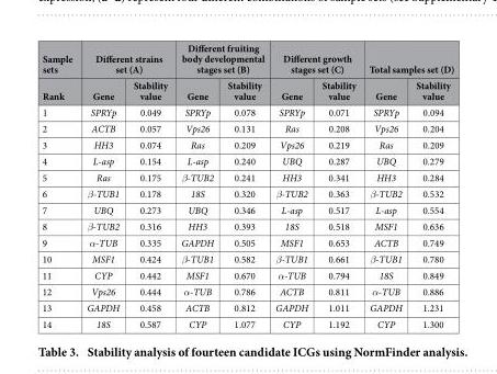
<table><thead><tr><td rowspan="2">Sample sets Rank</td><td colspan="2">Different strains set (A)</td><td colspan="2">Different fruiting body developmental stages set (B)</td><td colspan="2">Different growth stages set (C)</td><td colspan="2">Total samples set (D)</td></tr><tr><td>Gene</td><td>Stability value</td><td>Gene</td><td>Stability value</td><td>Gene</td><td>Stability value</td><td>Gene</td><td>Stability value</td></tr></thead><tbody><tr><td>1</td><td>SPRYp</td><td>0.049</td><td>SPRYp</td><td>0.078</td><td>SPRYp</td><td>0.071</td><td>SPRYp</td><td>0.094</td></tr><tr><td>2</td><td>ACTB</td><td>0.057</td><td>Vps26</td><td>0.131</td><td>Ras</td><td>0.208</td><td>Vps26</td><td>0.204</td></tr><tr><td>3</td><td>HH3</td><td>0.074</td><td>Ras</td><td>0.209</td><td>Vps26</td><td>0.219</td><td>Ras</td><td>0.209</td></tr><tr><td>4</td><td>L-asp</td><td>0.154</td><td>L-asp</td><td>0.240</td><td>UBQ</td><td>0.287</td><td>UBQ</td><td>0.279</td></tr><tr><td>5</td><td>Ras</td><td>0.175</td><td>β-TUB2</td><td>0.241</td><td>HH3</td><td>0.341</td><td>HH3</td><td>0.284</td></tr><tr><td>6</td><td>β-TUB1</td><td>0.178</td><td>18S</td><td>0.320</td><td>β-TUB2</td><td>0.363</td><td>β-TUB2</td><td>0.532</td></tr><tr><td>7</td><td>UBQ</td><td>0.273</td><td>UBQ</td><td>0.346</td><td>L-asp</td><td>0.517</td><td>L-asp</td><td>0.554</td></tr><tr><td>8</td><td>β-TUB2</td><td>0.316</td><td>HH3</td><td>0.393</td><td>18S</td><td>0.518</td><td>MSF1</td><td>0.636</td></tr><tr><td>9</td><td>α-TUB</td><td>0.335</td><td>GAPDH</td><td>0.505</td><td>MSF1</td><td>0.653</td><td>ACTB</td><td>0.749</td></tr><tr><td>10</td><td>MSF1</td><td>0.424</td><td>β-TUB1</td><td>0.582</td><td>β-TUB1</td><td>0.661</td><td>β-TUB1</td><td>0.780</td></tr><tr><td>11</td><td>CYP</td><td>0.442</td><td>MSF1</td><td>0.670</td><td>α-TUB</td><td>0.794</td><td>18S</td><td>0.849</td></tr><tr><td>12</td><td>Vps26</td><td>0.444</td><td>α-TUB</td><td>0.786</td><td>ACTB</td><td>0.811</td><td>α-TUB</td><td>0.886</td></tr><tr><td>13</td><td>GAPDH</td><td>0.458</td><td>ACTB</td><td>0.812</td><td>GAPDH</td><td>1.011</td><td>GAPDH</td><td>1.231</td></tr><tr><td>14</td><td>18S</td><td>0.587</td><td>CYP</td><td>1.077</td><td>CYP</td><td>1.192</td><td>CYP</td><td>1.300</td></tr></tbody></table>